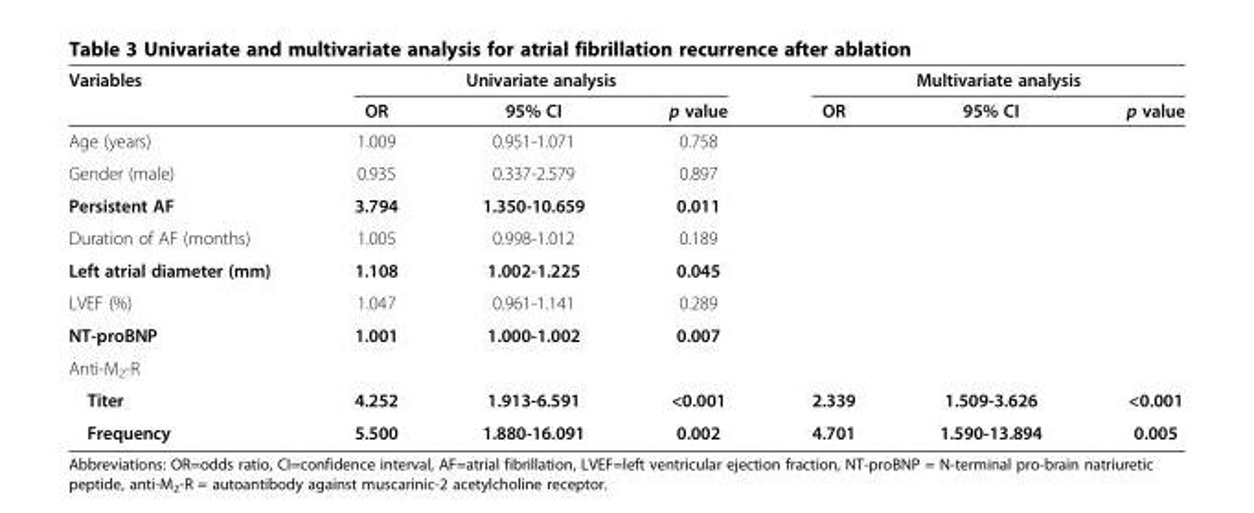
<table><thead><tr><td rowspan="2">Variables</td><td colspan="3">Univariate analysis</td><td colspan="3">Multivariate analysis</td></tr><tr><td>OR</td><td>95% CI</td><td>p value</td><td>OR</td><td>95% CI</td><td>p value</td></tr></thead><tbody><tr><td>Age (years)</td><td>1.009</td><td>0.951-1.071</td><td>0.758</td><td></td><td></td><td></td></tr><tr><td>Gender (male)</td><td>0.935</td><td>0.337-2.579</td><td>0.897</td><td></td><td></td><td></td></tr><tr><td>Persistent AF</td><td>3.794</td><td>1.350-10.659</td><td>0.011</td><td></td><td></td><td></td></tr><tr><td>Duration of AF (months)</td><td>1.005</td><td>0.998-1.012</td><td>0.189</td><td></td><td></td><td></td></tr><tr><td>Left atrial diameter (mm)</td><td>1.108</td><td>1.002-1.225</td><td>0.045</td><td></td><td></td><td></td></tr><tr><td>LVEF (%)</td><td>1.047</td><td>0.961-1.141</td><td>0.289</td><td></td><td></td><td></td></tr><tr><td>NT-proBNP</td><td>1.001</td><td>1.000-1.002</td><td>0.007</td><td></td><td></td><td></td></tr><tr><td colspan="7">Anti-M<sub>2</sub>-R</td></tr><tr><td>Titer</td><td>4.252</td><td>1.913-6.591</td><td>&lt;0.001</td><td>2.339</td><td>1.509-3.626</td><td>&lt;0.001</td></tr><tr><td>Frequency</td><td>5.500</td><td>1.880-16.091</td><td>0.002</td><td>4.701</td><td>1.590-13.894</td><td>0.005</td></tr></tbody></table>